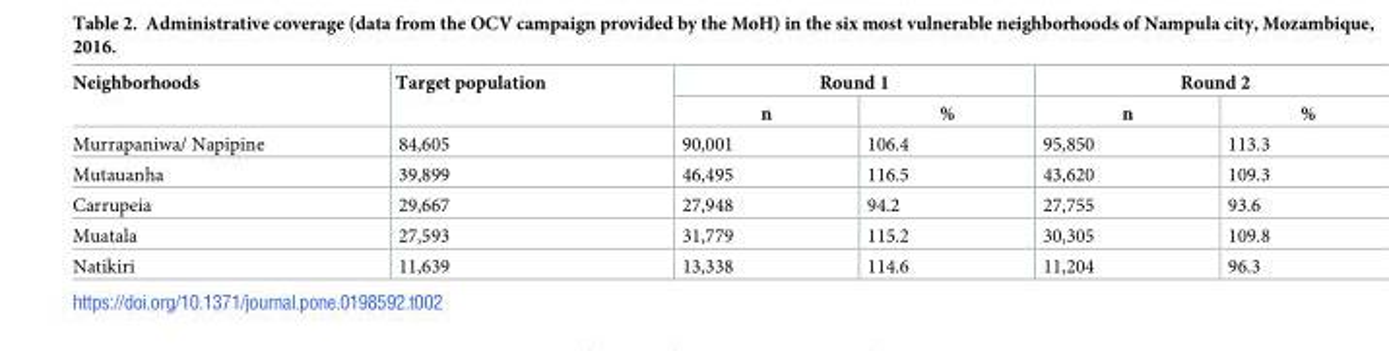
<table><thead><tr><td rowspan="2">Neighborhoods</td><td rowspan="2">Target population</td><td colspan="2">Round 1</td><td colspan="2">Round 2</td></tr><tr><td>n</td><td>%</td><td>n</td><td>%</td></tr></thead><tbody><tr><td>Murrapaniwa/ Napipine</td><td>84,605</td><td>90,001</td><td>106.4</td><td>95,850</td><td>113.3</td></tr><tr><td>Mutauanha</td><td>39,899</td><td>46,495</td><td>116.5</td><td>43,620</td><td>109.3</td></tr><tr><td>Carrupeia</td><td>29,667</td><td>27,948</td><td>94.2</td><td>27,755</td><td>93.6</td></tr><tr><td>Muatala</td><td>27,593</td><td>31,779</td><td>115.2</td><td>30,305</td><td>109.8</td></tr><tr><td>Natikiri</td><td>11,639</td><td>13,338</td><td>114.6</td><td>11,204</td><td>96.3</td></tr></tbody></table>